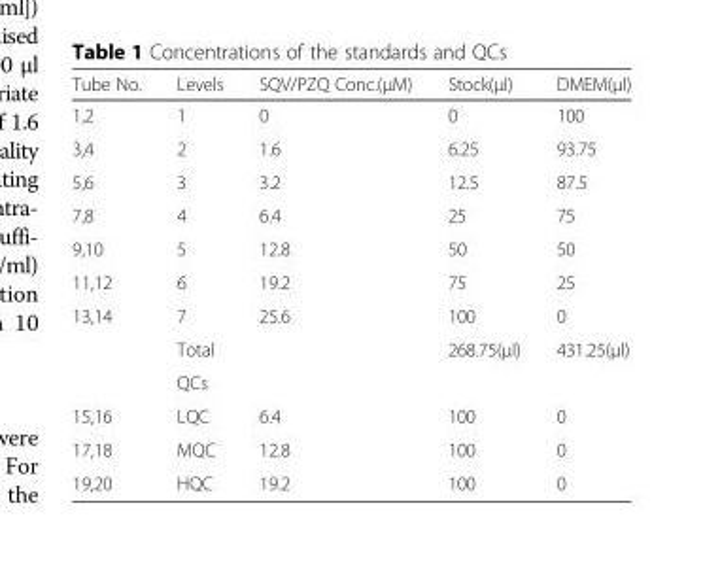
<table><thead><tr><td>Tube No.</td><td>Levels</td><td>SQV/PZQ Conc.(μM)</td><td>Stock(μl)</td><td>DMEM(μl)</td></tr></thead><tbody><tr><td>1,2</td><td>1</td><td>0</td><td>0</td><td>100</td></tr><tr><td>3,4</td><td>2</td><td>1.6</td><td>6.25</td><td>93.75</td></tr><tr><td>5,6</td><td>3</td><td>3.2</td><td>12.5</td><td>87.5</td></tr><tr><td>7,8</td><td>4</td><td>6.4</td><td>25</td><td>75</td></tr><tr><td>9,10</td><td>5</td><td>12.8</td><td>50</td><td>50</td></tr><tr><td>11,12</td><td>6</td><td>19.2</td><td>75</td><td>25</td></tr><tr><td rowspan="3">13,14</td><td>7</td><td>25.6</td><td>100</td><td>0</td></tr><tr><td>Total</td><td></td><td>268.75(μl)</td><td>431.25(μl)</td></tr><tr><td>QCs</td><td></td><td></td><td></td></tr><tr><td>15,16</td><td>LQC</td><td>6.4</td><td>100</td><td>0</td></tr><tr><td>17,18</td><td>MQC</td><td>12.8</td><td>100</td><td>0</td></tr><tr><td>19,20</td><td>HQC</td><td>19.2</td><td>100</td><td>0</td></tr></tbody></table>